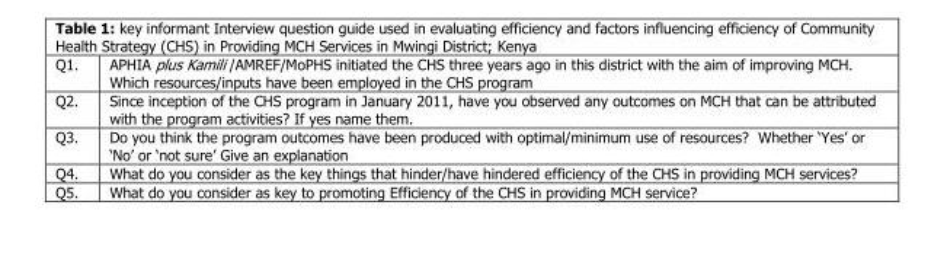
<table><tbody><tr><td>Q1.</td><td>APHIA plus Kamili /AMREF/MoPHS initiated the CHS three years ago in this district with the aim of improving MCH. Which resources/inputs have been employed in the CHS program</td></tr><tr><td>Q2.</td><td>Since inception of the CHS program in January 2011, have you observed any outcomes on MCH that can be attributed with the program activities? If yes name them.</td></tr><tr><td>Q3.</td><td>Do you think the program outcomes have been produced with optimal/minimum use of resources? Whether ‘Yes’ or ‘No’ or ‘not sure’ Give an explanation</td></tr><tr><td>Q4.</td><td>What do you consider as the key things that hinder/have hindered efficiency of the CHS in providing MCH services?</td></tr><tr><td>Q5.</td><td>What do you consider as key to promoting Efficiency of the CHS in providing MCH service?</td></tr></tbody></table>